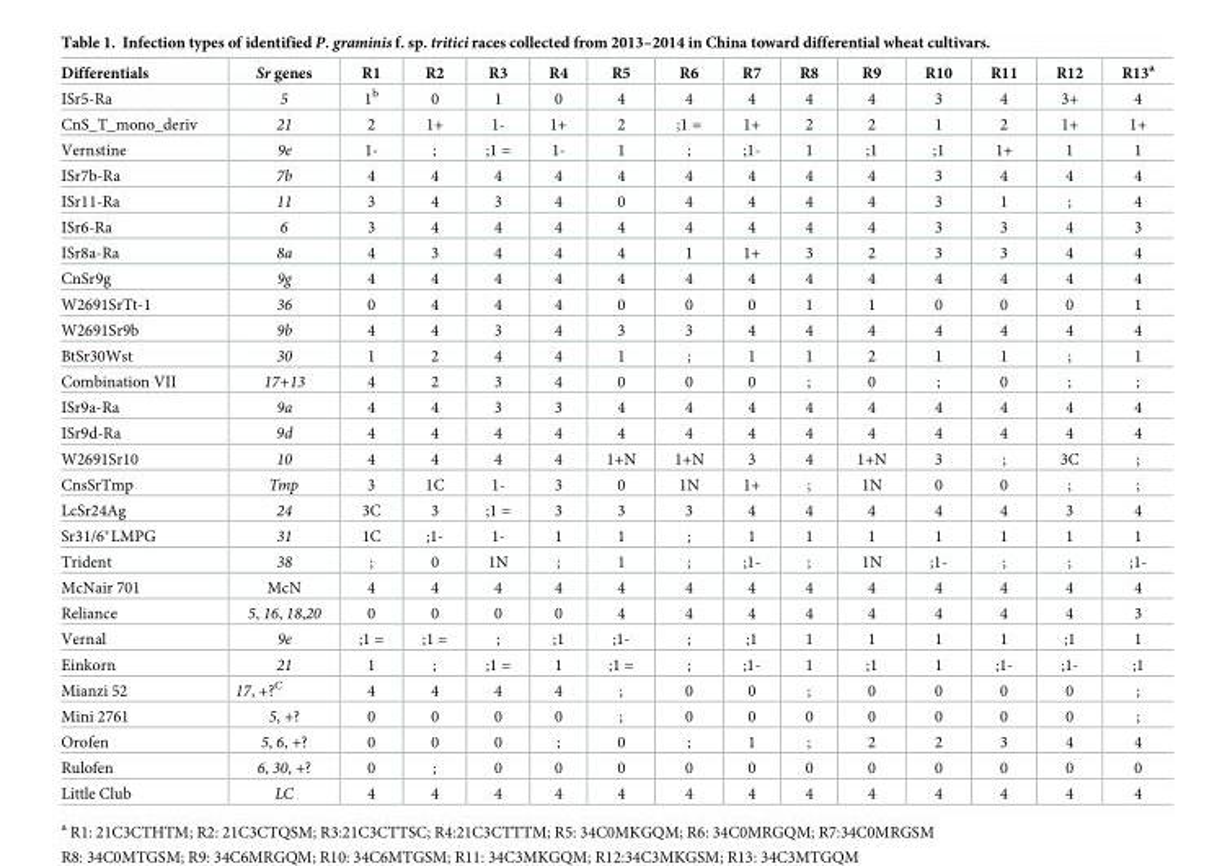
<table><thead><tr><td>Differentials</td><td>Sr genes</td><td>R1</td><td>R2</td><td>R3</td><td>R4</td><td>R5</td><td>R6</td><td>R7</td><td>R8</td><td>R9</td><td>R10</td><td>R11</td><td>R12</td><td>R13<sup>a</sup></td></tr></thead><tbody><tr><td>ISr5-Ra</td><td>5</td><td>1<sup>b</sup></td><td>0</td><td>1</td><td>0</td><td>4</td><td>4</td><td>4</td><td>4</td><td>4</td><td>3</td><td>4</td><td>3+</td><td>4</td></tr><tr><td>CnS_T_mono_deriv</td><td>21</td><td>2</td><td>1+</td><td>1-</td><td>1+</td><td>2</td><td>;1 =</td><td>1+</td><td>2</td><td>2</td><td>1</td><td>2</td><td>1+</td><td>1+</td></tr><tr><td>Vernstine</td><td>9e</td><td>1-</td><td>;</td><td>;1 =</td><td>1-</td><td>1</td><td>;</td><td>;1-</td><td>1</td><td>;1</td><td>;1</td><td>1+</td><td>1</td><td>1</td></tr><tr><td>ISr7b-Ra</td><td>7b</td><td>4</td><td>4</td><td>4</td><td>4</td><td>4</td><td>4</td><td>4</td><td>4</td><td>4</td><td>3</td><td>4</td><td>4</td><td>4</td></tr><tr><td>ISr11-Ra</td><td>11</td><td>3</td><td>4</td><td>3</td><td>4</td><td>0</td><td>4</td><td>4</td><td>4</td><td>4</td><td>3</td><td>1</td><td>;</td><td>4</td></tr><tr><td>ISr6-Ra</td><td>6</td><td>3</td><td>4</td><td>4</td><td>4</td><td>4</td><td>4</td><td>4</td><td>4</td><td>4</td><td>3</td><td>3</td><td>4</td><td>3</td></tr><tr><td>ISr8a-Ra</td><td>8a</td><td>4</td><td>3</td><td>4</td><td>4</td><td>4</td><td>1</td><td>1+</td><td>3</td><td>2</td><td>3</td><td>3</td><td>4</td><td>4</td></tr><tr><td>CnSr9g</td><td>9g</td><td>4</td><td>4</td><td>4</td><td>4</td><td>4</td><td>4</td><td>4</td><td>4</td><td>4</td><td>4</td><td>4</td><td>4</td><td>4</td></tr><tr><td>W2691SrTt-1</td><td>36</td><td>0</td><td>4</td><td>4</td><td>4</td><td>0</td><td>0</td><td>0</td><td>1</td><td>1</td><td>0</td><td>0</td><td>0</td><td>1</td></tr><tr><td>W2691Sr9b</td><td>9b</td><td>4</td><td>4</td><td>3</td><td>4</td><td>3</td><td>3</td><td>4</td><td>4</td><td>4</td><td>4</td><td>4</td><td>4</td><td>4</td></tr><tr><td>BtSr30Wst</td><td>30</td><td>1</td><td>2</td><td>4</td><td>4</td><td>1</td><td>;</td><td>1</td><td>1</td><td>2</td><td>1</td><td>1</td><td>;</td><td>1</td></tr><tr><td>Combination VII</td><td>17+13</td><td>4</td><td>2</td><td>3</td><td>4</td><td>0</td><td>0</td><td>0</td><td>;</td><td>0</td><td>;</td><td>0</td><td>;</td><td>;</td></tr><tr><td>ISr9a-Ra</td><td>9a</td><td>4</td><td>4</td><td>3</td><td>3</td><td>4</td><td>4</td><td>4</td><td>4</td><td>4</td><td>4</td><td>4</td><td>4</td><td>4</td></tr><tr><td>ISr9d-Ra</td><td>9d</td><td>4</td><td>4</td><td>4</td><td>4</td><td>4</td><td>4</td><td>4</td><td>4</td><td>4</td><td>4</td><td>4</td><td>4</td><td>4</td></tr><tr><td>W2691Sr10</td><td>10</td><td>4</td><td>4</td><td>4</td><td>4</td><td>1+N</td><td>1+N</td><td>3</td><td>4</td><td>1+N</td><td>3</td><td>;</td><td>3C</td><td>;</td></tr><tr><td>CnsSrTmp</td><td>Tmp</td><td>3</td><td>1C</td><td>1-</td><td>3</td><td>0</td><td>1N</td><td>1+</td><td>;</td><td>1N</td><td>0</td><td>0</td><td>;</td><td>;</td></tr><tr><td>LcSr24Ag</td><td>24</td><td>3C</td><td>3</td><td>;1 =</td><td>3</td><td>3</td><td>3</td><td>4</td><td>4</td><td>4</td><td>4</td><td>4</td><td>3</td><td>4</td></tr><tr><td>Sr31/6*LMPG</td><td>31</td><td>1C</td><td>;1-</td><td>1-</td><td>1</td><td>1</td><td>;</td><td>1</td><td>1</td><td>1</td><td>1</td><td>1</td><td>1</td><td>1</td></tr><tr><td>Trident</td><td>38</td><td>;</td><td>0</td><td>1N</td><td>;</td><td>1</td><td>;</td><td>;1-</td><td>;</td><td>1N</td><td>;1-</td><td>;</td><td>;</td><td>;1-</td></tr><tr><td>McNair 701</td><td>McN</td><td>4</td><td>4</td><td>4</td><td>4</td><td>4</td><td>4</td><td>4</td><td>4</td><td>4</td><td>4</td><td>4</td><td>4</td><td>4</td></tr><tr><td>Reliance</td><td>5, 16, 18,20</td><td>0</td><td>0</td><td>0</td><td>0</td><td>4</td><td>4</td><td>4</td><td>4</td><td>4</td><td>4</td><td>4</td><td>4</td><td>3</td></tr><tr><td>Vernal</td><td>9e</td><td>;1 =</td><td>;1 =</td><td>;</td><td>;1</td><td>;1-</td><td>;</td><td>;1</td><td>1</td><td>1</td><td>1</td><td>1</td><td>;1</td><td>1</td></tr><tr><td>Einkorn</td><td>21</td><td>1</td><td>;</td><td>;1 =</td><td>1</td><td>;1 =</td><td>;</td><td>;1-</td><td>1</td><td>;1</td><td>1</td><td>;1-</td><td>;1-</td><td>;1</td></tr><tr><td>Mianzi 52</td><td>17, +?<sup>C</sup></td><td>4</td><td>4</td><td>4</td><td>4</td><td>;</td><td>0</td><td>0</td><td>;</td><td>0</td><td>0</td><td>0</td><td>0</td><td>;</td></tr><tr><td>Mini 2761</td><td>5, +?</td><td>0</td><td>0</td><td>0</td><td>0</td><td>;</td><td>0</td><td>0</td><td>0</td><td>0</td><td>0</td><td>0</td><td>0</td><td>;</td></tr><tr><td>Orofen</td><td>5, 6, +?</td><td>0</td><td>0</td><td>0</td><td>;</td><td>0</td><td>;</td><td>1</td><td>;</td><td>2</td><td>2</td><td>3</td><td>4</td><td>4</td></tr><tr><td>Rulofen</td><td>6, 30, +?</td><td>0</td><td>;</td><td>0</td><td>0</td><td>0</td><td>0</td><td>0</td><td>0</td><td>0</td><td>0</td><td>0</td><td>0</td><td>0</td></tr><tr><td>Little Club</td><td>LC</td><td>4</td><td>4</td><td>4</td><td>4</td><td>4</td><td>4</td><td>4</td><td>4</td><td>4</td><td>4</td><td>4</td><td>4</td><td>4</td></tr></tbody></table>